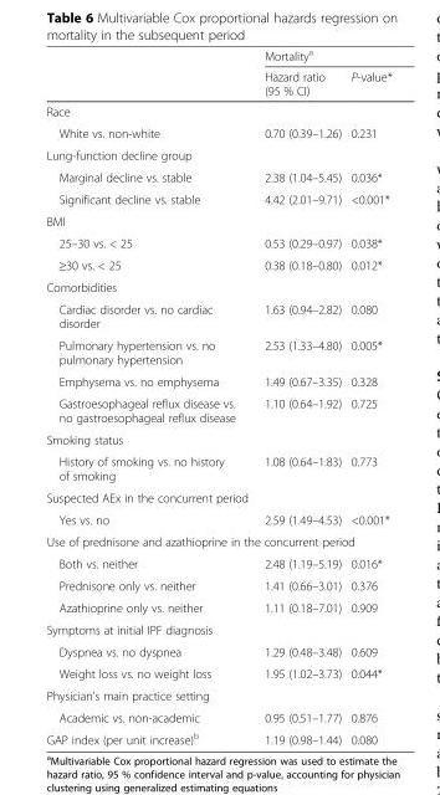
<table><thead><tr><td rowspan="2"></td><td colspan="2">Mortality<sup>a</sup></td></tr><tr><td>Hazard ratio (95 % CI)</td><td>P-value*</td></tr></thead><tbody><tr><td colspan="3">Race</td></tr><tr><td>White vs. non-white</td><td>0.70 (0.39–1.26)</td><td>0.231</td></tr><tr><td colspan="3">Lung-function decline group</td></tr><tr><td>Marginal decline vs. stable</td><td>2.38 (1.04–5.45)</td><td>0.036*</td></tr><tr><td>Significant decline vs. stable</td><td>4.42 (2.01–9.71)</td><td>&lt;0.001*</td></tr><tr><td colspan="3">BMI</td></tr><tr><td>25–30 vs. &lt; 25</td><td>0.53 (0.29–0.97)</td><td>0.038*</td></tr><tr><td>≥30 vs. &lt; 25</td><td>0.38 (0.18–0.80)</td><td>0.012*</td></tr><tr><td colspan="3">Comorbidities</td></tr><tr><td>Cardiac disorder vs. no cardiac disorder</td><td>1.63 (0.94–2.82)</td><td>0.080</td></tr><tr><td>Pulmonary hypertension vs. no pulmonary hypertension</td><td>2.53 (1.33–4.80)</td><td>0.005*</td></tr><tr><td>Emphysema vs. no emphysema</td><td>1.49 (0.67–3.35)</td><td>0.328</td></tr><tr><td>Gastroesophageal reflux disease vs. no gastroesophageal reflux disease</td><td>1.10 (0.64–1.92)</td><td>0.725</td></tr><tr><td colspan="3">Smoking status</td></tr><tr><td>History of smoking vs. no history of smoking</td><td>1.08 (0.64–1.83)</td><td>0.773</td></tr><tr><td colspan="3">Suspected AEx in the concurrent period</td></tr><tr><td>Yes vs. no</td><td>2.59 (1.49–4.53)</td><td>&lt;0.001*</td></tr><tr><td colspan="3">Use of prednisone and azathioprine in the concurrent period</td></tr><tr><td>Both vs. neither</td><td>2.48 (1.19–5.19)</td><td>0.016*</td></tr><tr><td>Prednisone only vs. neither</td><td>1.41 (0.66–3.01)</td><td>0.376</td></tr><tr><td>Azathioprine only vs. neither</td><td>1.11 (0.18–7.01)</td><td>0.909</td></tr><tr><td colspan="3">Symptoms at initial IPF diagnosis</td></tr><tr><td>Dyspnea vs. no dyspnea</td><td>1.29 (0.48–3.48)</td><td>0.609</td></tr><tr><td>Weight loss vs. no weight loss</td><td>1.95 (1.02–3.73)</td><td>0.044*</td></tr><tr><td colspan="3">Physician&#x27;s main practice setting</td></tr><tr><td>Academic vs. non-academic</td><td>0.95 (0.51–1.77)</td><td>0.876</td></tr><tr><td>GAP index (per unit increase)<sup>b</sup></td><td>1.19 (0.98–1.44)</td><td>0.080</td></tr></tbody></table>